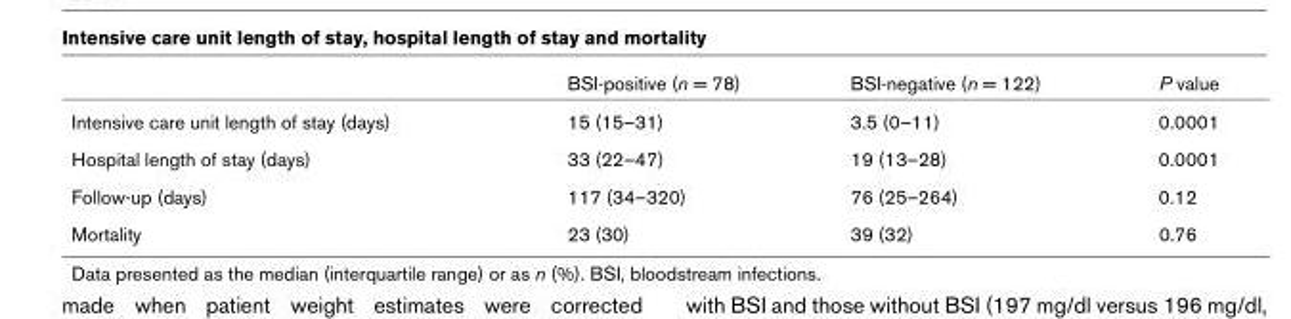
<table><thead><tr><td></td><td>BSI-positive (n = 78)</td><td>BSI-negative (n = 122)</td><td>P value</td></tr></thead><tbody><tr><td>Intensive care unit length of stay (days)</td><td>15 (15–31)</td><td>3.5 (0–11)</td><td>0.0001</td></tr><tr><td>Hospital length of stay (days)</td><td>33 (22–47)</td><td>19 (13–28)</td><td>0.0001</td></tr><tr><td>Follow-up (days)</td><td>117 (34–320)</td><td>76 (25–264)</td><td>0.12</td></tr><tr><td>Mortality</td><td>23 (30)</td><td>39 (32)</td><td>0.76</td></tr></tbody></table>